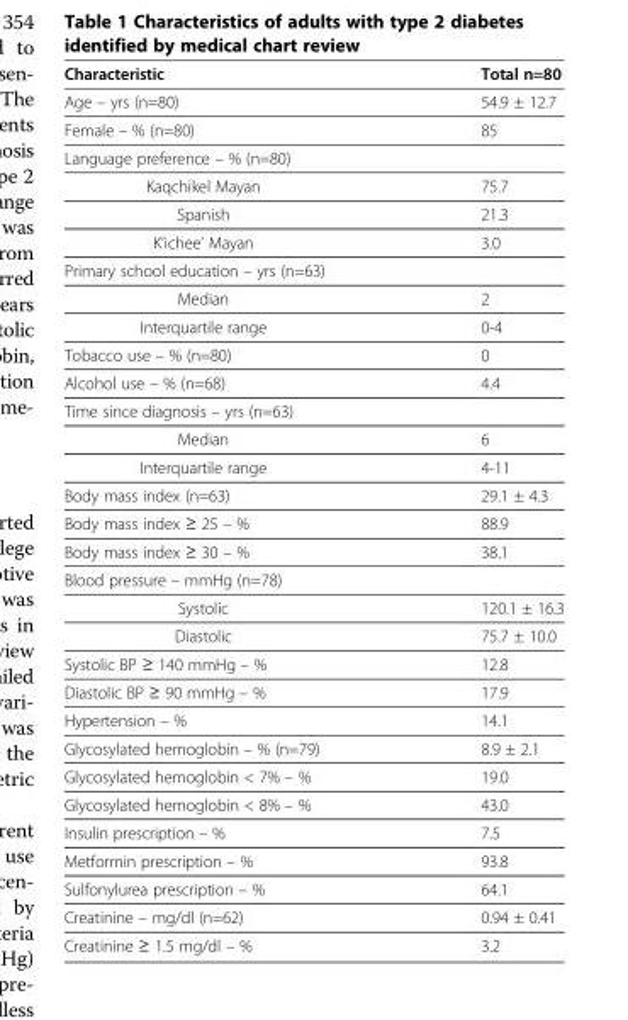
<table><thead><tr><td>Characteristic</td><td>Total n=80</td></tr></thead><tbody><tr><td>Age – yrs (n=80)</td><td>54.9 ± 12.7</td></tr><tr><td>Female – % (n=80)</td><td>85</td></tr><tr><td colspan="2">Language preference – % (n=80)</td></tr><tr><td>Kaqchikel Mayan</td><td>75.7</td></tr><tr><td>Spanish</td><td>21.3</td></tr><tr><td>K’ichee’ Mayan</td><td>3.0</td></tr><tr><td colspan="2">Primary school education – yrs (n=63)</td></tr><tr><td>Median</td><td>2</td></tr><tr><td>Interquartile range</td><td>0-4</td></tr><tr><td>Tobacco use – % (n=80)</td><td>0</td></tr><tr><td>Alcohol use – % (n=68)</td><td>4.4</td></tr><tr><td colspan="2">Time since diagnosis – yrs (n=63)</td></tr><tr><td>Median</td><td>6</td></tr><tr><td>Interquartile range</td><td>4-11</td></tr><tr><td>Body mass index (n=63)</td><td>29.1 ± 4.3</td></tr><tr><td>Body mass index ≥ 25 – %</td><td>88.9</td></tr><tr><td>Body mass index ≥ 30 – %</td><td>38.1</td></tr><tr><td colspan="2">Blood pressure – mmHg (n=78)</td></tr><tr><td>Systolic</td><td>120.1 ± 16.3</td></tr><tr><td>Diastolic</td><td>75.7 ± 10.0</td></tr><tr><td>Systolic BP ≥ 140 mmHg – %</td><td>12.8</td></tr><tr><td>Diastolic BP ≥ 90 mmHg – %</td><td>17.9</td></tr><tr><td>Hypertension – %</td><td>14.1</td></tr><tr><td>Glycosylated hemoglobin – % (n=79)</td><td>8.9 ± 2.1</td></tr><tr><td>Glycosylated hemoglobin &lt; 7% – %</td><td>19.0</td></tr><tr><td>Glycosylated hemoglobin &lt; 8% – %</td><td>43.0</td></tr><tr><td>Insulin prescription – %</td><td>7.5</td></tr><tr><td>Metformin prescription – %</td><td>93.8</td></tr><tr><td>Sulfonylurea prescription – %</td><td>64.1</td></tr><tr><td>Creatinine – mg/dl (n=62)</td><td>0.94 ± 0.41</td></tr><tr><td>Creatinine ≥ 1.5 mg/dl – %</td><td>3.2</td></tr></tbody></table>